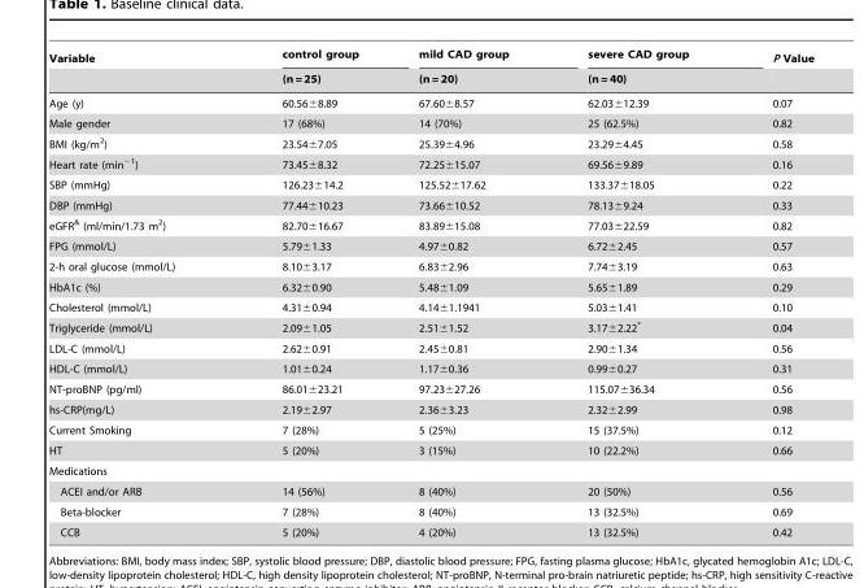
<table><thead><tr><td rowspan="2">Variable</td><td rowspan="2">control group (n = 25)</td><td rowspan="2">mild CAD group (n = 20)</td><td rowspan="2">severe CAD group (n = 40)</td><td rowspan="2">P Value</td></tr><tr></tr></thead><tbody><tr><td>Age (y)</td><td>60.56±8.89</td><td>67.60±8.57</td><td>62.03±12.39</td><td>0.07</td></tr><tr><td>Male gender</td><td>17 (68%)</td><td>14 (70%)</td><td>25 (62.5%)</td><td>0.82</td></tr><tr><td>BMI (kg/m<sup>2</sup>)</td><td>23.54±7.05</td><td>25.39±4.96</td><td>23.29±4.45</td><td>0.58</td></tr><tr><td>Heart rate (min<sup>−1</sup>)</td><td>73.45±8.32</td><td>72.25±15.07</td><td>69.56±9.89</td><td>0.16</td></tr><tr><td>SBP (mmHg)</td><td>126.23±14.2</td><td>125.52±17.62</td><td>133.37±18.05</td><td>0.22</td></tr><tr><td>DBP (mmHg)</td><td>77.44±10.23</td><td>73.66±10.52</td><td>78.13±9.24</td><td>0.33</td></tr><tr><td>eGFR<sup>&amp;</sup> (ml/min/1.73 m<sup>2</sup>)</td><td>82.70±16.67</td><td>83.89±15.08</td><td>77.03±22.59</td><td>0.82</td></tr><tr><td>FPG (mmol/L)</td><td>5.79±1.33</td><td>4.97±0.82</td><td>6.72±2.45</td><td>0.57</td></tr><tr><td>2-h oral glucose (mmol/L)</td><td>8.10±3.17</td><td>6.83±2.96</td><td>7.74±3.19</td><td>0.63</td></tr><tr><td>HbA1c (%)</td><td>6.32±0.90</td><td>5.48±1.09</td><td>5.65±1.89</td><td>0.29</td></tr><tr><td>Cholesterol (mmol/L)</td><td>4.31±0.94</td><td>4.14±1.1941</td><td>5.03±1.41</td><td>0.10</td></tr><tr><td>Triglyceride (mmol/L)</td><td>2.09±1.05</td><td>2.51±1.52</td><td>3.17±2.22*</td><td>0.04</td></tr><tr><td>LDL-C (mmol/L)</td><td>2.62±0.91</td><td>2.45±0.81</td><td>2.90±1.34</td><td>0.56</td></tr><tr><td>HDL-C (mmol/L)</td><td>1.01±0.24</td><td>1.17±0.36</td><td>0.99±0.27</td><td>0.31</td></tr><tr><td>NT-proBNP (pg/ml)</td><td>86.01±23.21</td><td>97.23±27.26</td><td>115.07±36.34</td><td>0.56</td></tr><tr><td>hs-CRP(mg/L)</td><td>2.19±2.97</td><td>2.36±3.23</td><td>2.32±2.99</td><td>0.98</td></tr><tr><td>Current Smoking</td><td>7 (28%)</td><td>5 (25%)</td><td>15 (37.5%)</td><td>0.12</td></tr><tr><td>HT</td><td>5 (20%)</td><td>3 (15%)</td><td>10 (22.2%)</td><td>0.66</td></tr><tr><td colspan="5">Medications</td></tr><tr><td>ACEI and/or ARB</td><td>14 (56%)</td><td>8 (40%)</td><td>20 (50%)</td><td>0.56</td></tr><tr><td>Beta-blocker</td><td>7 (28%)</td><td>8 (40%)</td><td>13 (32.5%)</td><td>0.69</td></tr><tr><td>CCB</td><td>5 (20%)</td><td>4 (20%)</td><td>13 (32.5%)</td><td>0.42</td></tr></tbody></table>